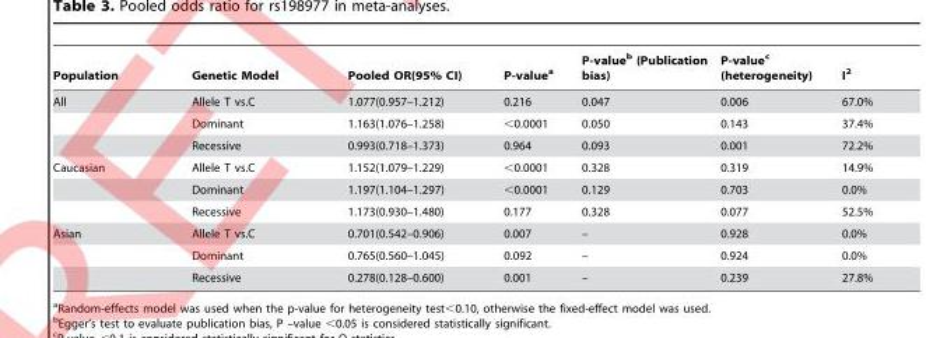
<table><thead><tr><td>Population</td><td>Genetic Model</td><td>Pooled OR(95% CI)</td><td>P-valuea</td><td>P-valueb (Publication bias)</td><td>P-valuec (heterogeneity)</td><td>I2</td></tr></thead><tbody><tr><td rowspan="3">All</td><td>Allele T vs.C</td><td>1.077(0.957–1.212)</td><td>0.216</td><td>0.047</td><td>0.006</td><td>67.0%</td></tr><tr><td>Dominant</td><td>1.163(1.076–1.258)</td><td>&lt;0.0001</td><td>0.050</td><td>0.143</td><td>37.4%</td></tr><tr><td>Recessive</td><td>0.993(0.718–1.373)</td><td>0.964</td><td>0.093</td><td>0.001</td><td>72.2%</td></tr><tr><td rowspan="3">Caucasian</td><td>Allele T vs.C</td><td>1.152(1.079–1.229)</td><td>&lt;0.0001</td><td>0.328</td><td>0.319</td><td>14.9%</td></tr><tr><td>Dominant</td><td>1.197(1.104–1.297)</td><td>&lt;0.0001</td><td>0.129</td><td>0.703</td><td>0.0%</td></tr><tr><td>Recessive</td><td>1.173(0.930–1.480)</td><td>0.177</td><td>0.328</td><td>0.077</td><td>52.5%</td></tr><tr><td rowspan="3">Asian</td><td>Allele T vs.C</td><td>0.701(0.542–0.906)</td><td>0.007</td><td>–</td><td>0.928</td><td>0.0%</td></tr><tr><td>Dominant</td><td>0.765(0.560–1.045)</td><td>0.092</td><td>–</td><td>0.924</td><td>0.0%</td></tr><tr><td>Recessive</td><td>0.278(0.128–0.600)</td><td>0.001</td><td>–</td><td>0.239</td><td>27.8%</td></tr></tbody></table>